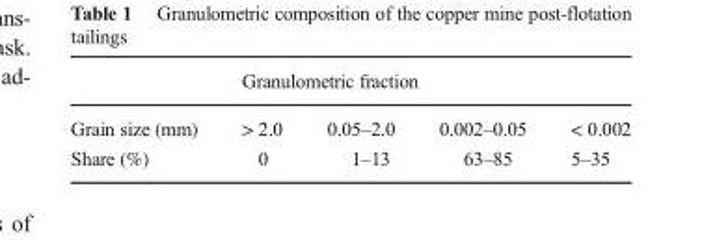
<table><thead><tr><td rowspan="2">Grain size (mm)</td><td colspan="4">Granulometric fraction</td></tr><tr><td>&gt; 2.0</td><td>0.05–2.0</td><td>0.002–0.05</td><td>&lt; 0.002</td></tr></thead><tbody><tr><td>Share (%)</td><td>0</td><td>1–13</td><td>63–85</td><td>5–35</td></tr></tbody></table>